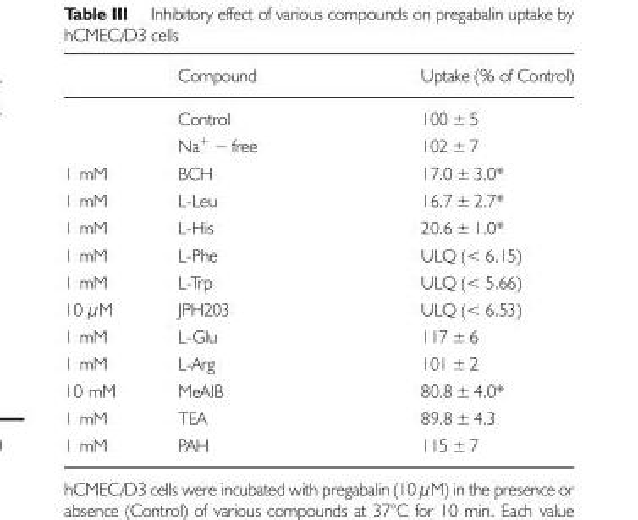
<table><thead><tr><td></td><td>Compound</td><td>Uptake (% of Control)</td></tr></thead><tbody><tr><td rowspan="2"></td><td>Control</td><td>100 ± 5</td></tr><tr><td>Na<sup>+</sup> − free</td><td>102 ± 7</td></tr><tr><td>1 mM</td><td>BCH</td><td>17.0 ± 3.0*</td></tr><tr><td>1 mM</td><td>L-Leu</td><td>16.7 ± 2.7*</td></tr><tr><td>1 mM</td><td>L-His</td><td>20.6 ± 1.0*</td></tr><tr><td>1 mM</td><td>L-Phe</td><td>ULQ (&lt; 6.15)</td></tr><tr><td>1 mM</td><td>L-Trp</td><td>ULQ (&lt; 5.66)</td></tr><tr><td>10 μM</td><td>JPH203</td><td>ULQ (&lt; 6.53)</td></tr><tr><td>1 mM</td><td>L-Glu</td><td>117 ± 6</td></tr><tr><td>1 mM</td><td>L-Arg</td><td>101 ± 2</td></tr><tr><td>10 mM</td><td>MeAIB</td><td>80.8 ± 4.0*</td></tr><tr><td>1 mM</td><td>TEA</td><td>89.8 ± 4.3</td></tr><tr><td>1 mM</td><td>PAH</td><td>115 ± 7</td></tr></tbody></table>